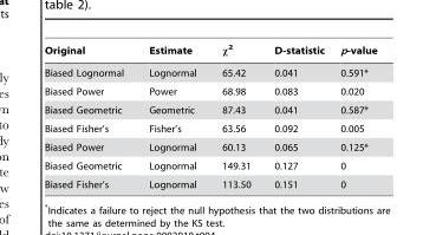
<table><thead><tr><td>Original</td><td>Estimate</td><td>χ<sup>2</sup></td><td>D-statistic</td><td>p-value</td></tr></thead><tbody><tr><td>Biased Lognormal</td><td>Lognormal</td><td>65.42</td><td>0.041</td><td>0.591*</td></tr><tr><td>Biased Power</td><td>Power</td><td>68.98</td><td>0.083</td><td>0.020</td></tr><tr><td>Biased Geometric</td><td>Geometric</td><td>87.43</td><td>0.041</td><td>0.587*</td></tr><tr><td>Biased Fisher’s</td><td>Fisher’s</td><td>63.56</td><td>0.092</td><td>0.005</td></tr><tr><td>Biased Power</td><td>Lognormal</td><td>60.13</td><td>0.065</td><td>0.125*</td></tr><tr><td>Biased Geometric</td><td>Lognormal</td><td>149.31</td><td>0.127</td><td>0</td></tr><tr><td>Biased Fisher’s</td><td>Lognormal</td><td>113.50</td><td>0.151</td><td>0</td></tr></tbody></table>